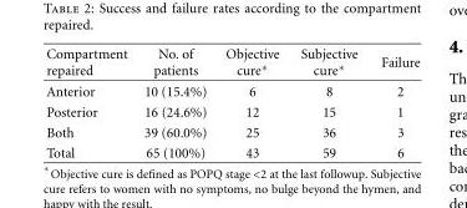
<table><thead><tr><td>Compartment repaired</td><td>No. of patients</td><td>Objective cure∗</td><td>Subjective cure∗</td><td>Failure</td></tr></thead><tbody><tr><td>Anterior</td><td>10 (15.4%)</td><td>6</td><td>8</td><td>2</td></tr><tr><td>Posterior</td><td>16 (24.6%)</td><td>12</td><td>15</td><td>1</td></tr><tr><td>Both</td><td>39 (60.0%)</td><td>25</td><td>36</td><td>3</td></tr><tr><td>Total</td><td>65 (100%)</td><td>43</td><td>59</td><td>6</td></tr></tbody></table>